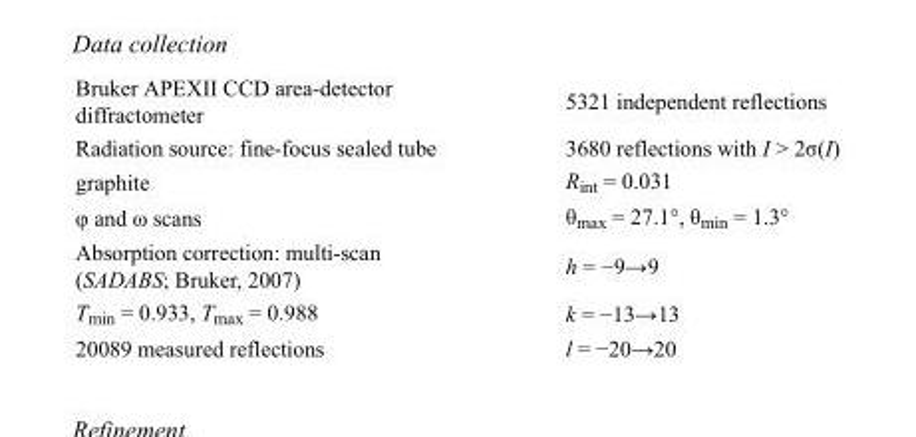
<table><tbody><tr><td>Bruker APEXII CCD area-detector diffractometer</td><td>5321 independent reflections</td></tr><tr><td>Radiation source: fine-focus sealed tube</td><td>3680 reflections with I &gt; 2σ(I)</td></tr><tr><td>graphite</td><td>R<sub>int</sub> = 0.031</td></tr><tr><td>φ and ω scans</td><td>θ<sub>max</sub> = 27.1°, θ<sub>min</sub> = 1.3°</td></tr><tr><td>Absorption correction: multi-scan (SADABS; Bruker, 2007)</td><td>h = −9→9</td></tr><tr><td>T<sub>min</sub> = 0.933, T<sub>max</sub> = 0.988</td><td>k = −13→13</td></tr><tr><td>20089 measured reflections</td><td>l = −20→20</td></tr></tbody></table>